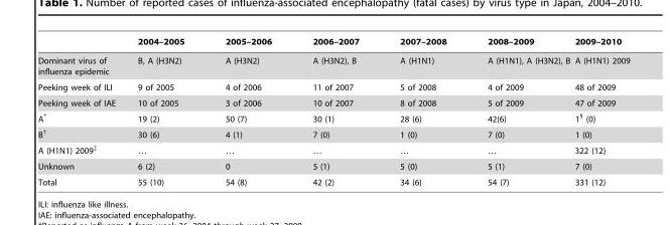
<table><thead><tr><td></td><td>2004–2005</td><td>2005–2006</td><td>2006–2007</td><td>2007–2008</td><td>2008–2009</td><td>2009–2010</td></tr></thead><tbody><tr><td>Dominant virus of influenza epidemic</td><td>B, A (H3N2)</td><td>A (H3N2)</td><td>A (H3N2), B</td><td>A (H1N1)</td><td>A (H1N1), A (H3N2), B</td><td>A (H1N1) 2009</td></tr><tr><td>Peeking week of ILI</td><td>9 of 2005</td><td>4 of 2006</td><td>11 of 2007</td><td>5 of 2008</td><td>4 of 2009</td><td>48 of 2009</td></tr><tr><td>Peeking week of IAE</td><td>10 of 2005</td><td>3 of 2006</td><td>10 of 2007</td><td>8 of 2008</td><td>5 of 2009</td><td>47 of 2009</td></tr><tr><td>A*</td><td>19 (2)</td><td>50 (7)</td><td>30 (1)</td><td>28 (6)</td><td>42(6)</td><td>1§ (0)</td></tr><tr><td>B†</td><td>30 (6)</td><td>4 (1)</td><td>7 (0)</td><td>1 (0)</td><td>7 (0)</td><td>1 (0)</td></tr><tr><td>A (H1N1) 2009‡</td><td>…</td><td>…</td><td>…</td><td>…</td><td>…</td><td>322 (12)</td></tr><tr><td>Unknown</td><td>6 (2)</td><td>0</td><td>5 (1)</td><td>5 (0)</td><td>5 (1)</td><td>7 (0)</td></tr><tr><td>Total</td><td>55 (10)</td><td>54 (8)</td><td>42 (2)</td><td>34 (6)</td><td>54 (7)</td><td>331 (12)</td></tr></tbody></table>